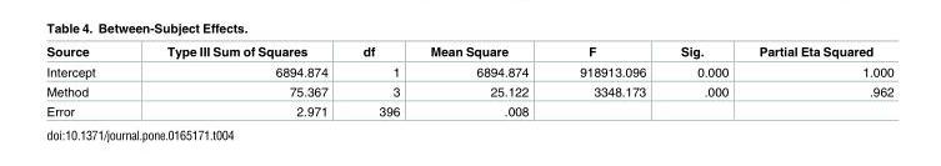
<table><thead><tr><td>Source</td><td>Type III Sum of Squares</td><td>df</td><td>Mean Square</td><td>F</td><td>Sig.</td><td>Partial Eta Squared</td></tr></thead><tbody><tr><td>Intercept</td><td>6894.874</td><td>1</td><td>6894.874</td><td>918913.096</td><td>0.000</td><td>1.000</td></tr><tr><td>Method</td><td>75.367</td><td>3</td><td>25.122</td><td>3348.173</td><td>.000</td><td>.962</td></tr><tr><td>Error</td><td>2.971</td><td>396</td><td>.008</td><td></td><td></td><td></td></tr></tbody></table>